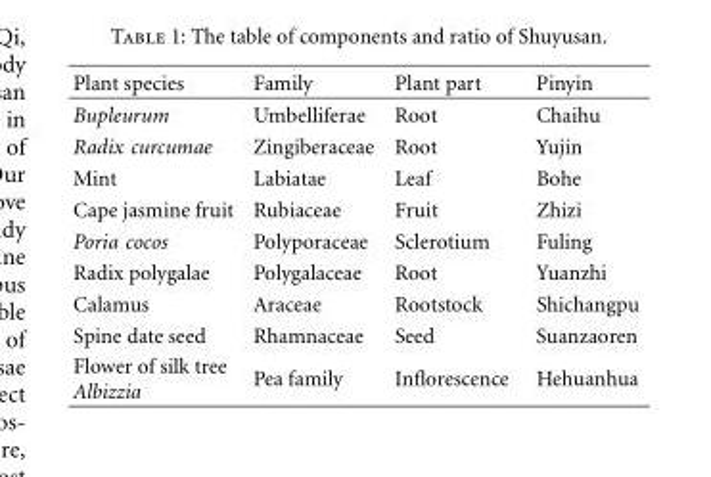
<table><thead><tr><td>Plant species</td><td>Family</td><td>Plant part</td><td>Pinyin</td></tr></thead><tbody><tr><td>Bupleurum</td><td>Umbelliferae</td><td>Root</td><td>Chaihu</td></tr><tr><td>Radix curcumae</td><td>Zingiberaceae</td><td>Root</td><td>Yujin</td></tr><tr><td>Mint</td><td>Labiatae</td><td>Leaf</td><td>Bohe</td></tr><tr><td>Cape jasmine fruit</td><td>Rubiaceae</td><td>Fruit</td><td>Zhizi</td></tr><tr><td>Poria cocos</td><td>Polyporaceae</td><td>Sclerotium</td><td>Fuling</td></tr><tr><td>Radix polygalae</td><td>Polygalaceae</td><td>Root</td><td>Yuanzhi</td></tr><tr><td>Calamus</td><td>Araceae</td><td>Rootstock</td><td>Shichangpu</td></tr><tr><td>Spine date seed</td><td>Rhamnaceae</td><td>Seed</td><td>Suanzaoren</td></tr><tr><td>Flower of silk tree Albizzia</td><td>Pea family</td><td>Inflorescence</td><td>Hehuanhua</td></tr></tbody></table>